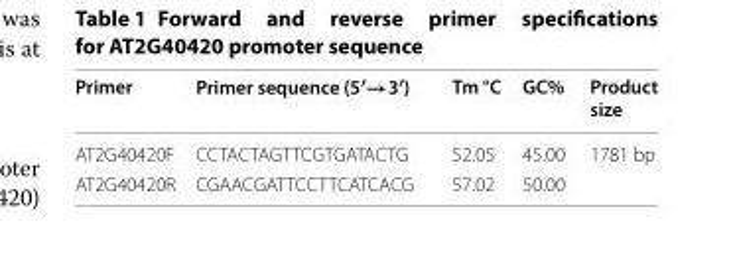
<table><thead><tr><td>Primer</td><td>Primer sequence (5′→3′)</td><td>Tm °C</td><td>GC%</td><td>Product size</td></tr></thead><tbody><tr><td>AT2G40420F</td><td>CCTACTAGTTCGTGATACTG</td><td>52.05</td><td>45.00</td><td rowspan="2">1781 bp</td></tr><tr><td>AT2G40420R</td><td>CGAACGATTCCTTCATCACG</td><td>57.02</td><td>50.00</td></tr></tbody></table>